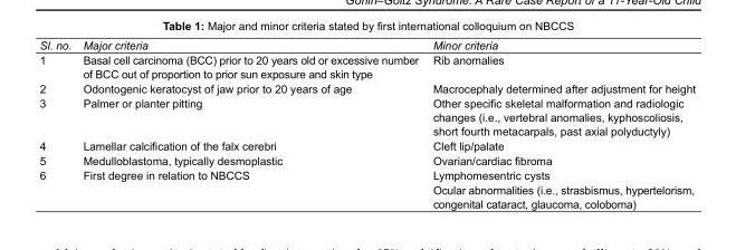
<table><tbody><tr><td>Sl. no.</td><td>Major criteria</td><td>Minor criteria</td></tr><tr><td rowspan="2">1</td><td>Basal cell carcinoma (BCC) prior to 20 years old or excessive number</td><td>Rib anomalies</td></tr><tr><td>of BCC out of proportion to prior sun exposure and skin type</td><td></td></tr><tr><td>2</td><td>Odontogenic keratocyst of jaw prior to 20 years of age</td><td>Macrocephaly determined after adjustment for height</td></tr><tr><td rowspan="3">3</td><td>Palmer or planter pitting</td><td>Other specific skeletal malformation and radiologic</td></tr><tr><td></td><td>changes (i.e., vertebral anomalies, kyphoscoliosis,</td></tr><tr><td></td><td>short fourth metacarpals, past axial polyductyly)</td></tr><tr><td>4</td><td>Lamellar calcification of the falx cerebri</td><td>Cleft lip/palate</td></tr><tr><td>5</td><td>Medulloblastoma, typically desmoplastic</td><td>Ovarian/cardiac fibroma</td></tr><tr><td rowspan="3">6</td><td>First degree in relation to NBCCS</td><td>Lymphomesentric cysts</td></tr><tr><td></td><td>Ocular abnormalities (i.e., strasbismus, hypertelorism,</td></tr><tr><td></td><td>congenital cataract, glaucoma, coloboma)</td></tr></tbody></table>